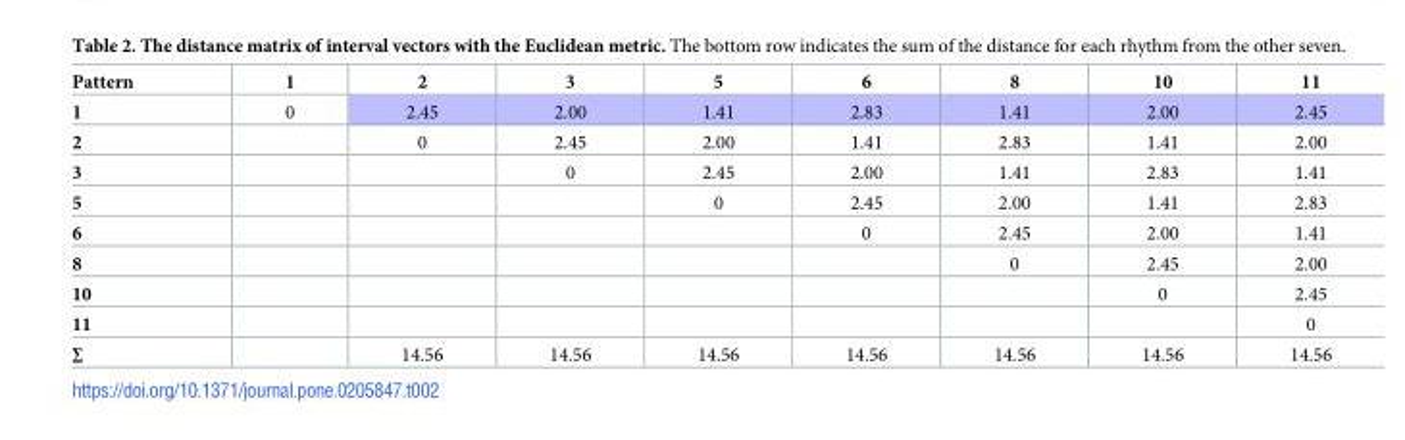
<table><tbody><tr><td>Pattern</td><td>1</td><td>2</td><td>3</td><td>5</td><td>6</td><td>8</td><td>10</td><td>11</td></tr><tr><td>1</td><td>0</td><td>2.45</td><td>2.00</td><td>1.41</td><td>2.83</td><td>1.41</td><td>2.00</td><td>2.45</td></tr><tr><td>2</td><td></td><td>0</td><td>2.45</td><td>2.00</td><td>1.41</td><td>2.83</td><td>1.41</td><td>2.00</td></tr><tr><td>3</td><td></td><td></td><td>0</td><td>2.45</td><td>2.00</td><td>1.41</td><td>2.83</td><td>1.41</td></tr><tr><td>5</td><td></td><td></td><td></td><td>0</td><td>2.45</td><td>2.00</td><td>1.41</td><td>2.83</td></tr><tr><td>6</td><td></td><td></td><td></td><td></td><td>0</td><td>2.45</td><td>2.00</td><td>1.41</td></tr><tr><td>8</td><td></td><td></td><td></td><td></td><td></td><td>0</td><td>2.45</td><td>2.00</td></tr><tr><td>10</td><td></td><td></td><td></td><td></td><td></td><td></td><td>0</td><td>2.45</td></tr><tr><td>11</td><td></td><td></td><td></td><td></td><td></td><td></td><td></td><td>0</td></tr><tr><td>∑</td><td></td><td>14.56</td><td>14.56</td><td>14.56</td><td>14.56</td><td>14.56</td><td>14.56</td><td>14.56</td></tr></tbody></table>